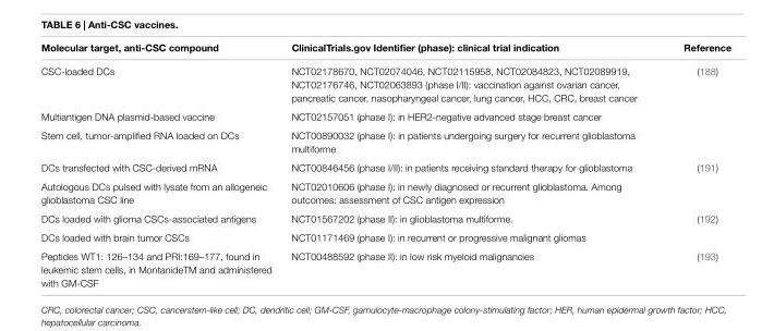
<table><thead><tr><td>Molecular target, anti-CSC compound</td><td>ClinicalTrials.gov identifier (phase): clinical trial indication</td><td>Reference</td></tr></thead><tbody><tr><td>CSC-loaded DCs</td><td>NCT02178670, NCT02074046, NCT02115958, NCT02084823, NCT02089919, NCT02176746, NCT02063893 (phase I/II): vaccination against ovarian cancer, pancreatic cancer, nasopharyngeal cancer, lung cancer, HCC, CRC, breast cancer</td><td>(188)</td></tr><tr><td>Multiantigen DNA plasmid-based vaccine</td><td>NCT02157051 (phase I): in HER2-negative advanced stage breast cancer</td><td></td></tr><tr><td>Stem cell, tumor-amplified RNA loaded on DCs</td><td>NCT00890032 (phase I): in patients undergoing surgery for recurrent glioblastoma multiforme</td><td></td></tr><tr><td>DCs transfected with CSC-derived mRNA</td><td>NCT00846456 (phase I/II): in patients receiving standard therapy for glioblastoma</td><td>(191)</td></tr><tr><td>Autologous DCs pulsed with lysate from an allogeneic glioblastoma CSC line</td><td>NCT02010606 (phase I): in newly diagnosed or recurrent glioblastoma. Among outcomes: assessment of CSC antigen expression</td><td></td></tr><tr><td>DCs loaded with glioma CSCs-associated antigens</td><td>NCT01567202 (phase II): in glioblastoma multiforme.</td><td>(192)</td></tr><tr><td>DCs loaded with brain tumor CSCs</td><td>NCT01171469 (phase I): in recurrent or progressive malignant gliomas</td><td></td></tr><tr><td>Peptides WT1: 126–134 and PRI:169–177, found in leukemic stem cells, in MontanideTM and administered with GM-CSF</td><td>NCT00488592 (phase II): in low risk myeloid malignancies</td><td>(193)</td></tr></tbody></table>